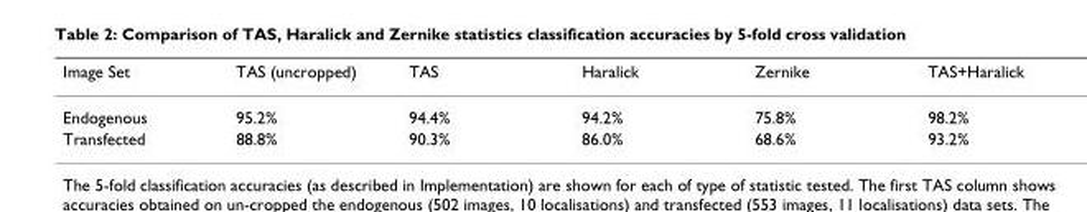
<table><thead><tr><td>Image Set</td><td>TAS (uncropped)</td><td>TAS</td><td>Haralick</td><td>Zernike</td><td>TAS+Haralick</td></tr></thead><tbody><tr><td>Endogenous</td><td>95.2%</td><td>94.4%</td><td>94.2%</td><td>75.8%</td><td>98.2%</td></tr><tr><td>Transfected</td><td>88.8%</td><td>90.3%</td><td>86.0%</td><td>68.6%</td><td>93.2%</td></tr></tbody></table>